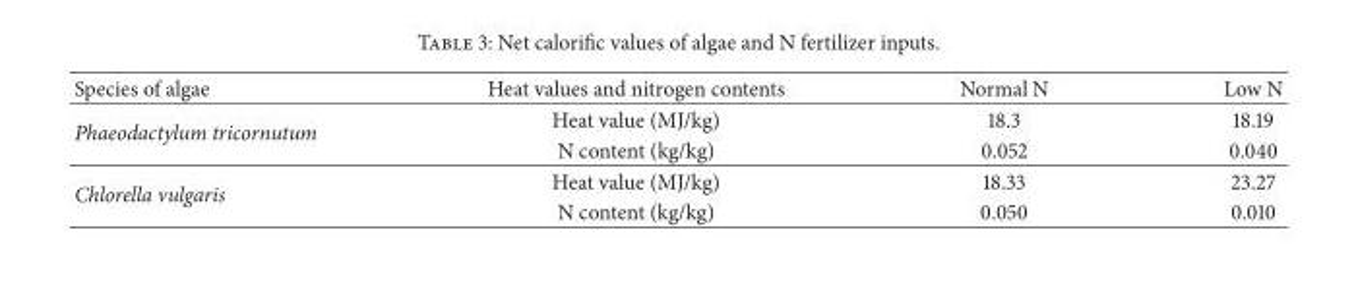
<table><thead><tr><td>Species of algae</td><td>Heat values and nitrogen contents</td><td>Normal N</td><td>Low N</td></tr></thead><tbody><tr><td rowspan="2">Phaeodactylum tricornutum</td><td>Heat value (MJ/kg)</td><td>18.3</td><td>18.19</td></tr><tr><td>N content (kg/kg)</td><td>0.052</td><td>0.040</td></tr><tr><td rowspan="2">Chlorella vulgaris</td><td>Heat value (MJ/kg)</td><td>18.33</td><td>23.27</td></tr><tr><td>N content (kg/kg)</td><td>0.050</td><td>0.010</td></tr></tbody></table>